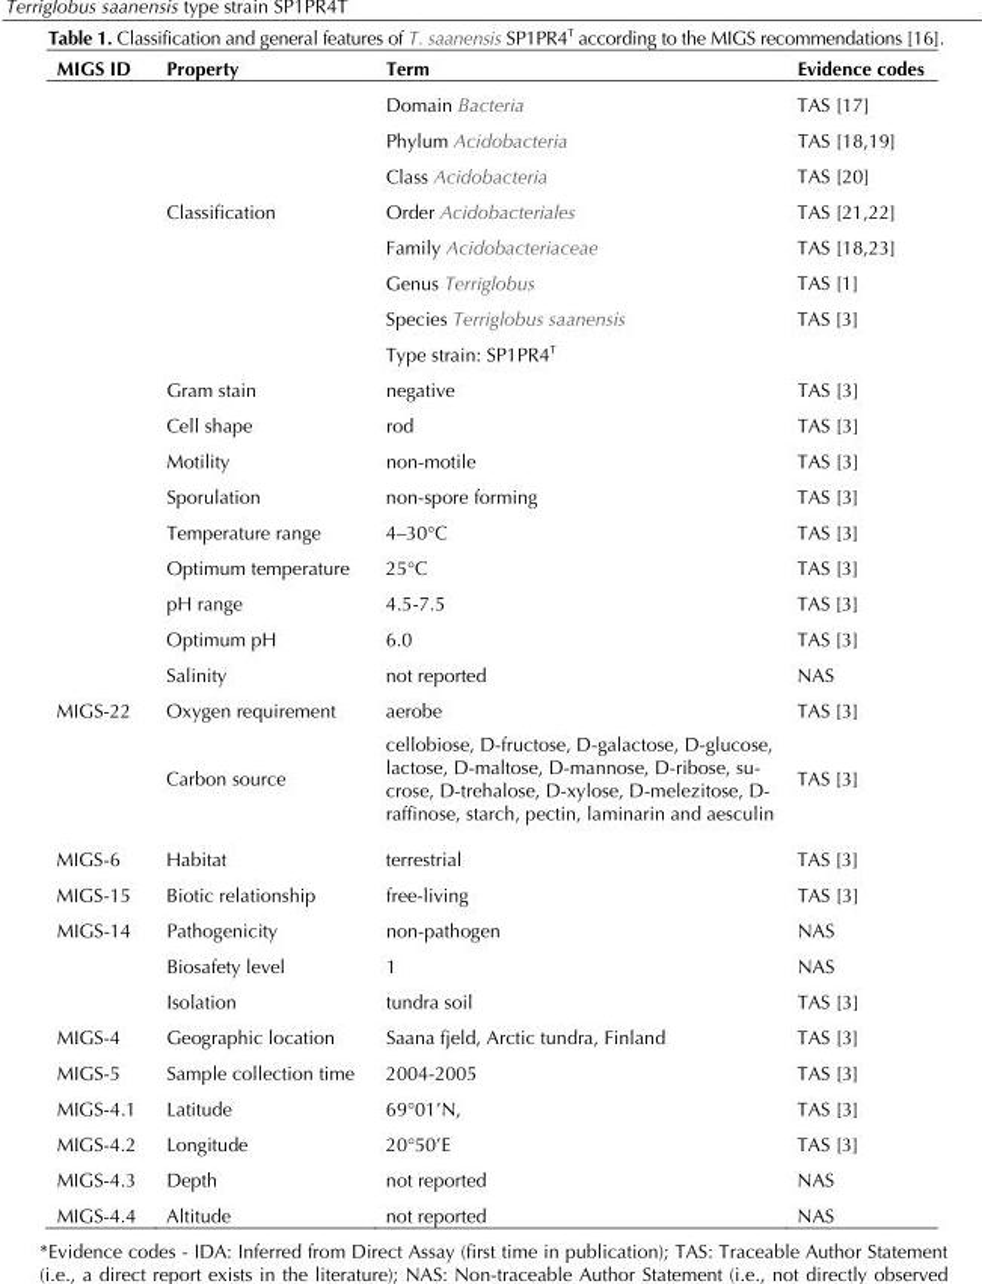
<table><thead><tr><td>MIGS ID</td><td>Property</td><td>Term</td><td>Evidence codes</td></tr></thead><tbody><tr><td></td><td></td><td>Domain Bacteria</td><td>TAS [17]</td></tr><tr><td></td><td></td><td>Phylum Acidobacteria</td><td>TAS [18,19]</td></tr><tr><td></td><td></td><td>Class Acidobacteria</td><td>TAS [20]</td></tr><tr><td></td><td>Classification</td><td>Order Acidobacteriales</td><td>TAS [21,22]</td></tr><tr><td></td><td></td><td>Family Acidobacteriaceae</td><td>TAS [18,23]</td></tr><tr><td></td><td></td><td>Genus Terriglobus</td><td>TAS [1]</td></tr><tr><td></td><td></td><td>Species Terriglobus saanensis</td><td>TAS [3]</td></tr><tr><td></td><td></td><td>Type strain: SP1PR4<sup>T</sup></td><td></td></tr><tr><td></td><td>Gram stain</td><td>negative</td><td>TAS [3]</td></tr><tr><td></td><td>Cell shape</td><td>rod</td><td>TAS [3]</td></tr><tr><td></td><td>Motility</td><td>non-motile</td><td>TAS [3]</td></tr><tr><td></td><td>Sporulation</td><td>non-spore forming</td><td>TAS [3]</td></tr><tr><td></td><td>Temperature range</td><td>4–30°C</td><td>TAS [3]</td></tr><tr><td></td><td>Optimum temperature</td><td>25°C</td><td>TAS [3]</td></tr><tr><td></td><td>pH range</td><td>4.5-7.5</td><td>TAS [3]</td></tr><tr><td></td><td>Optimum pH</td><td>6.0</td><td>TAS [3]</td></tr><tr><td></td><td>Salinity</td><td>not reported</td><td>NAS</td></tr><tr><td rowspan="2">MIGS-22</td><td>Oxygen requirement</td><td>aerobe</td><td>TAS [3]</td></tr><tr><td>Carbon source</td><td>cellobiose, D-fructose, D-galactose, D-glucose, lactose, D-maltose, D-mannose, D-ribose, su- crose, D-trehalose, D-xylose, D-melezitose, D- raffinose, starch, pectin, laminarin and aesculin</td><td>TAS [3]</td></tr><tr><td>MIGS-6</td><td>Habitat</td><td>terrestrial</td><td>TAS [3]</td></tr><tr><td>MIGS-15</td><td>Biotic relationship</td><td>free-living</td><td>TAS [3]</td></tr><tr><td rowspan="3">MIGS-14</td><td>Pathogenicity</td><td>non-pathogen</td><td>NAS</td></tr><tr><td>Biosafety level</td><td>1</td><td>NAS</td></tr><tr><td>Isolation</td><td>tundra soil</td><td>TAS [3]</td></tr><tr><td>MIGS-4</td><td>Geographic location</td><td>Saana fjeld, Arctic tundra, Finland</td><td>TAS [3]</td></tr><tr><td>MIGS-5</td><td>Sample collection time</td><td>2004-2005</td><td>TAS [3]</td></tr><tr><td>MIGS-4.1</td><td>Latitude</td><td>69°01’N,</td><td>TAS [3]</td></tr><tr><td>MIGS-4.2</td><td>Longitude</td><td>20°50’E</td><td>TAS [3]</td></tr><tr><td>MIGS-4.3</td><td>Depth</td><td>not reported</td><td>NAS</td></tr><tr><td>MIGS-4.4</td><td>Altitude</td><td>not reported</td><td>NAS</td></tr></tbody></table>